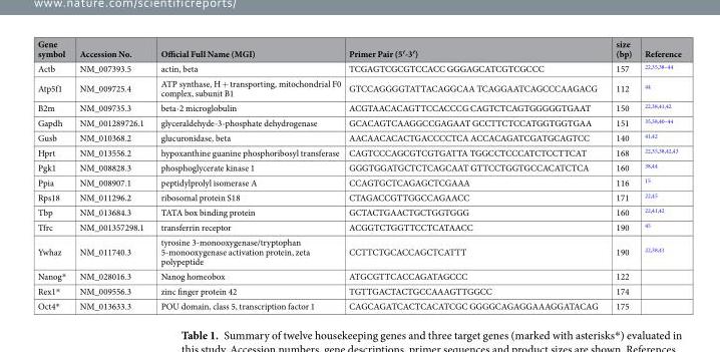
<table><thead><tr><td>Gene symbol</td><td>Accession No.</td><td>Official Full Name (MGI)</td><td>Primer Pair (5′-3′)</td><td>size (bp)</td><td>Reference</td></tr></thead><tbody><tr><td>Actb</td><td>NM_007393.5</td><td>actin, beta</td><td>TCGAGTCGCGTCCACC GGGAGCATCGTCGCCC</td><td>157</td><td><sup>22,35,38–44</sup></td></tr><tr><td>Atp5f1</td><td>NM_009725.4</td><td>ATP synthase, H + transporting, mitochondrial F0 complex, subunit B1</td><td>GTCCAGGGGTATTACAGGCAA TCAGGAATCAGCCCAAGACG</td><td>112</td><td><sup>44</sup></td></tr><tr><td>B2m</td><td>NM_009735.3</td><td>beta-2 microglobulin</td><td>ACGTAACACAGTTCCACCCG CAGTCTCAGTGGGGGTGAAT</td><td>150</td><td><sup>22,38,41,42</sup></td></tr><tr><td>Gapdh</td><td>NM_001289726.1</td><td>glyceraldehyde-3-phosphate dehydrogenase</td><td>GCACAGTCAAGGCCGAGAAT GCCTTCTCCATGGTGGTGAA</td><td>151</td><td><sup>35,38,40–44</sup></td></tr><tr><td>Gusb</td><td>NM_010368.2</td><td>glucuronidase, beta</td><td>AACAACACACTGACCCCTCA ACCACAGATCGATGCAGTCC</td><td>140</td><td><sup>41,42</sup></td></tr><tr><td>Hprt</td><td>NM_013556.2</td><td>hypoxanthine guanine phosphoribosyl transferase</td><td>CAGTCCCAGCGTCGTGATTA TGGCCTCCCATCTCCTTCAT</td><td>168</td><td><sup>22,35,38,42,43</sup></td></tr><tr><td>Pgk1</td><td>NM_008828.3</td><td>phosphoglycerate kinase 1</td><td>GGGTGGATGCTCTCAGCAAT GTTCCTGGTGCCACATCTCA</td><td>160</td><td><sup>38,44</sup></td></tr><tr><td>Ppia</td><td>NM_008907.1</td><td>peptidylprolyl isomerase A</td><td>CCAGTGCTCAGAGCTCGAAA</td><td>116</td><td><sup>15</sup></td></tr><tr><td>Rps18</td><td>NM_011296.2</td><td>ribosomal protein S18</td><td>CTAGACCGTTGGCCAGAACC</td><td>171</td><td><sup>22,45</sup></td></tr><tr><td>Tbp</td><td>NM_013684.3</td><td>TATA box binding protein</td><td>GCTACTGAACTGCTGGTGGG</td><td>160</td><td><sup>22,41,42</sup></td></tr><tr><td>Tfrc</td><td>NM_001357298.1</td><td>transferrin receptor</td><td>ACGGTCTGGTTCCTCATAACC</td><td>190</td><td><sup>45</sup></td></tr><tr><td>Ywhaz</td><td>NM_011740.3</td><td>tyrosine 3-monooxygenase/tryptophan 5-monooxygenase activation protein, zeta polypeptide</td><td>CCTTCTGCACCAGCTCATTT</td><td>190</td><td><sup>22,38,41</sup></td></tr><tr><td>Nanog*</td><td>NM_028016.3</td><td>Nanog homeobox</td><td>ATGCGTTCACCAGATAGCCC</td><td>122</td><td></td></tr><tr><td>Rex1*</td><td>NM_009556.3</td><td>zinc finger protein 42</td><td>TGTTGACTACTGCCAAAGTTGGCC</td><td>174</td><td></td></tr><tr><td>Oct4*</td><td>NM_013633.3</td><td>POU domain, class 5, transcription factor 1</td><td>CAGCAGATCACTCACATCGC GGGGCAGAGGAAAGGATACAG</td><td>175</td><td></td></tr></tbody></table>